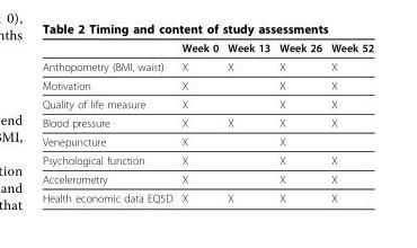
<table><thead><tr><td></td><td>Week 0</td><td>Week 13</td><td>Week 26</td><td>Week 52</td></tr></thead><tbody><tr><td>Anthopometry (BMI, waist)</td><td>X</td><td>X</td><td>X</td><td>X</td></tr><tr><td>Motivation</td><td>X</td><td></td><td>X</td><td>X</td></tr><tr><td>Quality of life measure</td><td>X</td><td></td><td>X</td><td>X</td></tr><tr><td>Blood pressure</td><td>X</td><td>X</td><td>X</td><td>X</td></tr><tr><td>Venepuncture</td><td>X</td><td></td><td>X</td><td></td></tr><tr><td>Psychological function</td><td>X</td><td></td><td>X</td><td>X</td></tr><tr><td>Accelerometry</td><td>X</td><td></td><td>X</td><td>X</td></tr><tr><td>Health economic data EQ5D</td><td>X</td><td>X</td><td>X</td><td>X</td></tr></tbody></table>